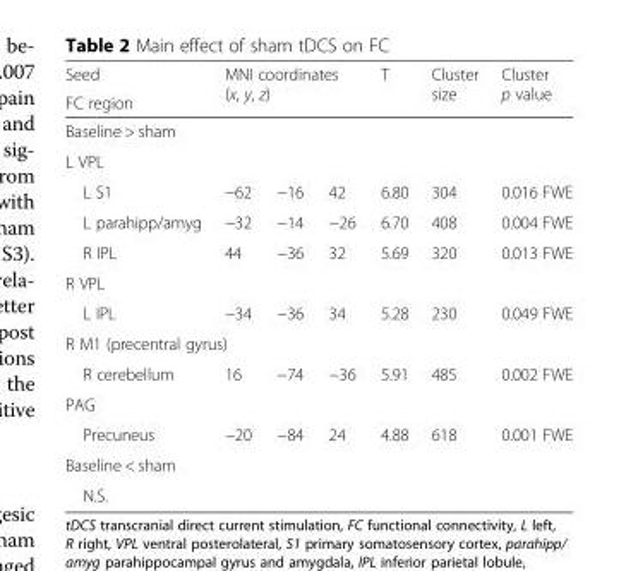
<table><thead><tr><td rowspan="2">Seed FC region</td><td rowspan="2" colspan="3">MNI coordinates (x, y, z)</td><td rowspan="2">T</td><td rowspan="2">Cluster size</td><td rowspan="2">Cluster p value</td></tr><tr></tr><tr><td rowspan="2" colspan="7">Baseline &gt; sham L VPL</td></tr><tr></tr><tr><td>L S1</td><td>−62</td><td>−16</td><td>42</td><td>6.80</td><td>304</td><td>0.016 FWE</td></tr></thead><tbody><tr><td>L parahipp/amyg</td><td>−32</td><td>−14</td><td>−26</td><td>6.70</td><td>408</td><td>0.004 FWE</td></tr><tr><td>R IPL</td><td>44</td><td>−36</td><td>32</td><td>5.69</td><td>320</td><td>0.013 FWE</td></tr><tr><td colspan="7">R VPL</td></tr><tr><td>L IPL</td><td>−34</td><td>−36</td><td>34</td><td>5.28</td><td>230</td><td>0.049 FWE</td></tr><tr><td colspan="7">R M1 (precentral gyrus)</td></tr><tr><td>R cerebellum</td><td>16</td><td>−74</td><td>−36</td><td>5.91</td><td>485</td><td>0.002 FWE</td></tr><tr><td colspan="7">PAG</td></tr><tr><td>Precuneus</td><td>−20</td><td>−84</td><td>24</td><td>4.88</td><td>618</td><td>0.001 FWE</td></tr><tr><td colspan="7">Baseline &lt; sham</td></tr><tr><td>N.S.</td><td></td><td></td><td></td><td></td><td></td><td></td></tr></tbody></table>